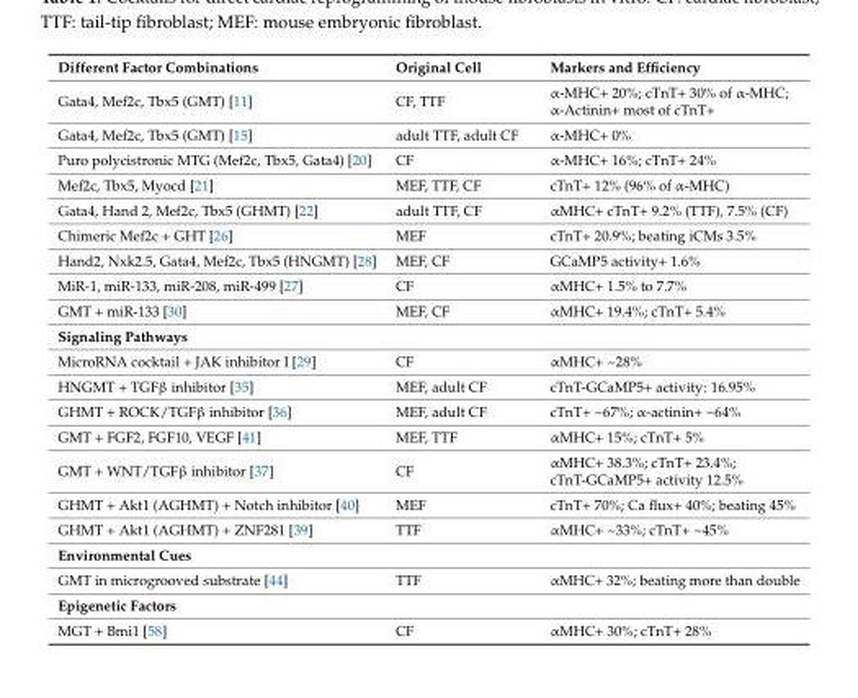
<table><thead><tr><td>Different Factor Combinations</td><td>Original Cell</td><td>Markers and Efficiency</td></tr></thead><tbody><tr><td>Gata4, Mef2c, Tbx5 (GMT) [11]</td><td>CF, TTF</td><td>α-MHC+ 20%; cTnT+ 30% of α-MHC; α-Actinin+ most of cTnT+</td></tr><tr><td>Gata4, Mef2c, Tbx5 (GMT) [15]</td><td>adult TTF, adult CF</td><td>α-MHC+ 0%</td></tr><tr><td>Puro polycistronic MTG (Mef2c, Tbx5, Gata4) [20]</td><td>CF</td><td>α-MHC+ 16%; cTnT+ 24%</td></tr><tr><td>Mef2c, Tbx5, Myocd [21]</td><td>MEF, TTF, CF</td><td>cTnT+ 12% (96% of α-MHC)</td></tr><tr><td>Gata4, Hand 2, Mef2c, Tbx5 (GHMT) [22]</td><td>adult TTF, CF</td><td>αMHC+ cTnT+ 9.2% (TTF), 7.5% (CF)</td></tr><tr><td>Chimeric Mef2c + GHT [26]</td><td>MEF</td><td>cTnT+ 20.9%; beating iCMs 3.5%</td></tr><tr><td>Hand2, Nxk2.5, Gata4, Mef2c, Tbx5 (HNGMT) [28]</td><td>MEF, CF</td><td>GCaMP5 activity+ 1.6%</td></tr><tr><td>MiR-1, miR-133, miR-208, miR-499 [27]</td><td>CF</td><td>αMHC+ 1.5% to 7.7%</td></tr><tr><td>GMT + miR-133 [30]</td><td>MEF, CF</td><td>αMHC+ 19.4%; cTnT+ 5.4%</td></tr><tr><td colspan="3">Signaling Pathways</td></tr><tr><td>MicroRNA cocktail + JAK inhibitor I [29]</td><td>CF</td><td>αMHC+ ~28%</td></tr><tr><td>HNGMT + TGFβ inhibitor [35]</td><td>MEF, adult CF</td><td>cTnT-GCaMP5+ activity: 16.95%</td></tr><tr><td>GHMT + ROCK/TGFβ inhibitor [36]</td><td>MEF, adult CF</td><td>cTnT+ ~67%; α-actinin+ ~64%</td></tr><tr><td>GMT + FGF2, FGF10, VEGF [41]</td><td>MEF, TTF</td><td>αMHC+ 15%; cTnT+ 5%</td></tr><tr><td>GMT + WNT/TGFβ inhibitor [37]</td><td>CF</td><td>αMHC+ 38.3%; cTnT+ 23.4%; cTnT-GCaMP5+ activity 12.5%</td></tr><tr><td>GHMT + Akt1 (AGHMT) + Notch inhibitor [40]</td><td>MEF</td><td>cTnT+ 70%; Ca flux+ 40%; beating 45%</td></tr><tr><td>GHMT + Akt1 (AGHMT) + ZNF281 [39]</td><td>TTF</td><td>αMHC+ ~33%; cTnT+ ~45%</td></tr><tr><td colspan="3">Environmental Cues</td></tr><tr><td>GMT in microgrooved substrate [44]</td><td>TTF</td><td>αMHC+ 32%; beating more than double</td></tr><tr><td colspan="3">Epigenetic Factors</td></tr><tr><td>MGT + Bmi1 [58]</td><td>CF</td><td>αMHC+ 30%; cTnT+ 28%</td></tr></tbody></table>